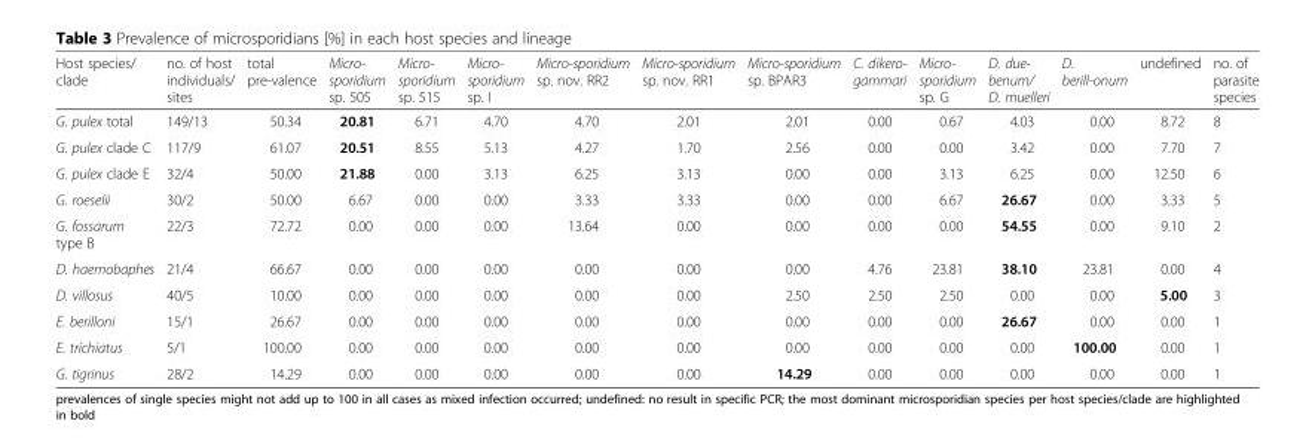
<table><thead><tr><td>Host species/ clade</td><td>no. of host individuals/ sites</td><td>total pre-valence</td><td>Micro- sporidium sp. 505</td><td>Micro- sporidium sp. 515</td><td>Micro- sporidium sp. I</td><td>Micro-sporidium sp. nov. RR2</td><td>Micro-sporidium sp. nov. RR1</td><td>Micro-sporidium sp. BPAR3</td><td>C. dikero- gammari</td><td>Micro- sporidium sp. G</td><td>D. due- benum/ D. muelleri</td><td>D. berill-onum</td><td>undefined</td><td>no. of parasite species</td></tr></thead><tbody><tr><td>G. pulex total</td><td>149/13</td><td>50.34</td><td>20.81</td><td>6.71</td><td>4.70</td><td>4.70</td><td>2.01</td><td>2.01</td><td>0.00</td><td>0.67</td><td>4.03</td><td>0.00</td><td>8.72</td><td>8</td></tr><tr><td>G. pulex clade C</td><td>117/9</td><td>61.07</td><td>20.51</td><td>8.55</td><td>5.13</td><td>4.27</td><td>1.70</td><td>2.56</td><td>0.00</td><td>0.00</td><td>3.42</td><td>0.00</td><td>7.70</td><td>7</td></tr><tr><td>G. pulex clade E</td><td>32/4</td><td>50.00</td><td>21.88</td><td>0.00</td><td>3.13</td><td>6.25</td><td>3.13</td><td>0.00</td><td>0.00</td><td>3.13</td><td>6.25</td><td>0.00</td><td>12.50</td><td>6</td></tr><tr><td>G. roeselii</td><td>30/2</td><td>50.00</td><td>6.67</td><td>0.00</td><td>0.00</td><td>3.33</td><td>3.33</td><td>0.00</td><td>0.00</td><td>6.67</td><td>26.67</td><td>0.00</td><td>3.33</td><td>5</td></tr><tr><td>G. fossarum type B</td><td>22/3</td><td>72.72</td><td>0.00</td><td>0.00</td><td>0.00</td><td>13.64</td><td>0.00</td><td>0.00</td><td>0.00</td><td>0.00</td><td>54.55</td><td>0.00</td><td>9.10</td><td>2</td></tr><tr><td>D. haemobaphes</td><td>21/4</td><td>66.67</td><td>0.00</td><td>0.00</td><td>0.00</td><td>0.00</td><td>0.00</td><td>0.00</td><td>4.76</td><td>23.81</td><td>38.10</td><td>23.81</td><td>0.00</td><td>4</td></tr><tr><td>D. villosus</td><td>40/5</td><td>10.00</td><td>0.00</td><td>0.00</td><td>0.00</td><td>0.00</td><td>0.00</td><td>2.50</td><td>2.50</td><td>2.50</td><td>0.00</td><td>0.00</td><td>5.00</td><td>3</td></tr><tr><td>E. berilloni</td><td>15/1</td><td>26.67</td><td>0.00</td><td>0.00</td><td>0.00</td><td>0.00</td><td>0.00</td><td>0.00</td><td>0.00</td><td>0.00</td><td>26.67</td><td>0.00</td><td>0.00</td><td>1</td></tr><tr><td>E. trichiatus</td><td>5/1</td><td>100.00</td><td>0.00</td><td>0.00</td><td>0.00</td><td>0.00</td><td>0.00</td><td>0.00</td><td>0.00</td><td>0.00</td><td>0.00</td><td>100.00</td><td>0.00</td><td>1</td></tr><tr><td>G. tigrinus</td><td>28/2</td><td>14.29</td><td>0.00</td><td>0.00</td><td>0.00</td><td>0.00</td><td>0.00</td><td>14.29</td><td>0.00</td><td>0.00</td><td>0.00</td><td>0.00</td><td>0.00</td><td>1</td></tr></tbody></table>